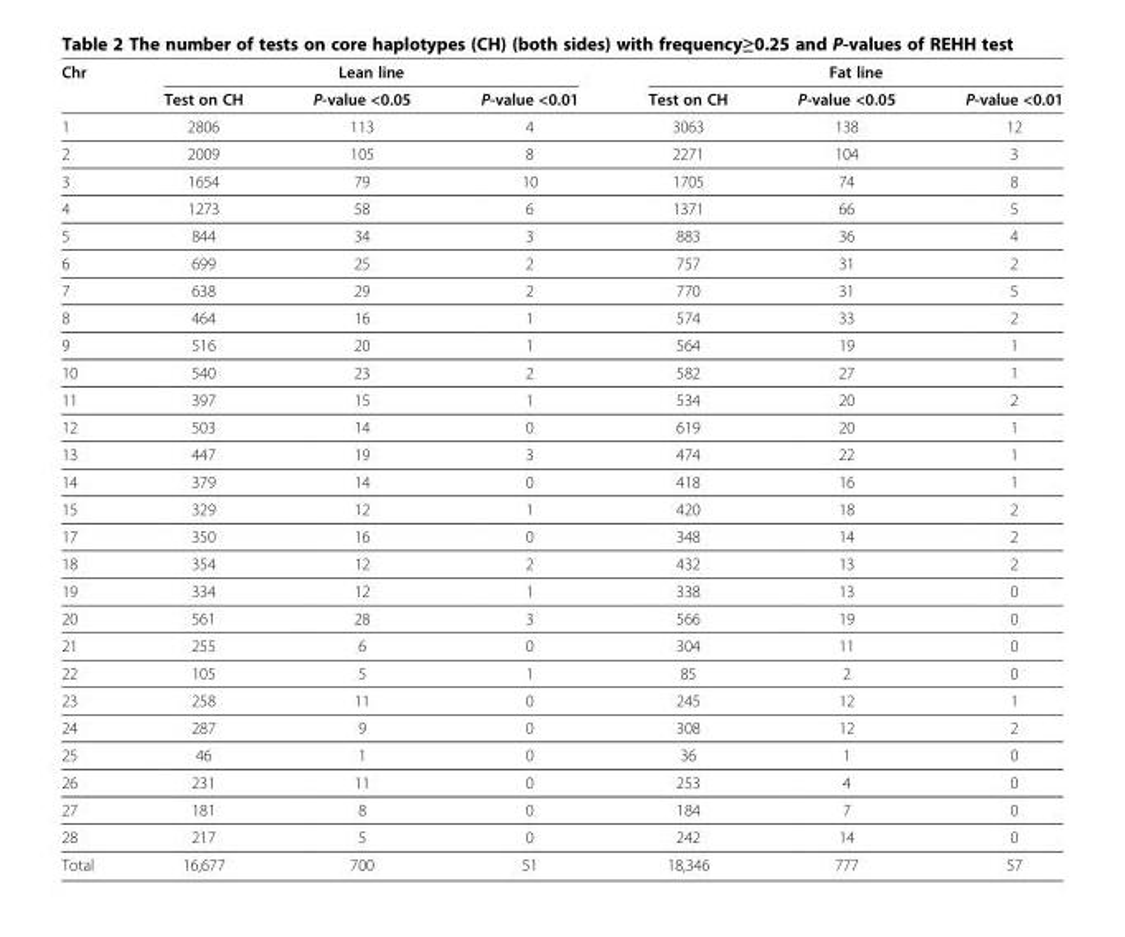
<table><thead><tr><td rowspan="2">Chr</td><td colspan="3">Lean line</td><td colspan="3">Fat line</td></tr><tr><td>Test on CH</td><td>P-value &lt;0.05</td><td>P-value &lt;0.01</td><td>Test on CH</td><td>P-value &lt;0.05</td><td>P-value &lt;0.01</td></tr></thead><tbody><tr><td>1</td><td>2806</td><td>113</td><td>4</td><td>3063</td><td>138</td><td>12</td></tr><tr><td>2</td><td>2009</td><td>105</td><td>8</td><td>2271</td><td>104</td><td>3</td></tr><tr><td>3</td><td>1654</td><td>79</td><td>10</td><td>1705</td><td>74</td><td>8</td></tr><tr><td>4</td><td>1273</td><td>58</td><td>6</td><td>1371</td><td>66</td><td>5</td></tr><tr><td>5</td><td>844</td><td>34</td><td>3</td><td>883</td><td>36</td><td>4</td></tr><tr><td>6</td><td>699</td><td>25</td><td>2</td><td>757</td><td>31</td><td>2</td></tr><tr><td>7</td><td>638</td><td>29</td><td>2</td><td>770</td><td>31</td><td>5</td></tr><tr><td>8</td><td>464</td><td>16</td><td>1</td><td>574</td><td>33</td><td>2</td></tr><tr><td>9</td><td>516</td><td>20</td><td>1</td><td>564</td><td>19</td><td>1</td></tr><tr><td>10</td><td>540</td><td>23</td><td>2</td><td>582</td><td>27</td><td>1</td></tr><tr><td>11</td><td>397</td><td>15</td><td>1</td><td>534</td><td>20</td><td>2</td></tr><tr><td>12</td><td>503</td><td>14</td><td>0</td><td>619</td><td>20</td><td>1</td></tr><tr><td>13</td><td>447</td><td>19</td><td>3</td><td>474</td><td>22</td><td>1</td></tr><tr><td>14</td><td>379</td><td>14</td><td>0</td><td>418</td><td>16</td><td>1</td></tr><tr><td>15</td><td>329</td><td>12</td><td>1</td><td>420</td><td>18</td><td>2</td></tr><tr><td>17</td><td>350</td><td>16</td><td>0</td><td>348</td><td>14</td><td>2</td></tr><tr><td>18</td><td>354</td><td>12</td><td>2</td><td>432</td><td>13</td><td>2</td></tr><tr><td>19</td><td>334</td><td>12</td><td>1</td><td>338</td><td>13</td><td>0</td></tr><tr><td>20</td><td>561</td><td>28</td><td>3</td><td>566</td><td>19</td><td>0</td></tr><tr><td>21</td><td>255</td><td>6</td><td>0</td><td>304</td><td>11</td><td>0</td></tr><tr><td>22</td><td>105</td><td>5</td><td>1</td><td>85</td><td>2</td><td>0</td></tr><tr><td>23</td><td>258</td><td>11</td><td>0</td><td>245</td><td>12</td><td>1</td></tr><tr><td>24</td><td>287</td><td>9</td><td>0</td><td>308</td><td>12</td><td>2</td></tr><tr><td>25</td><td>46</td><td>1</td><td>0</td><td>36</td><td>1</td><td>0</td></tr><tr><td>26</td><td>231</td><td>11</td><td>0</td><td>253</td><td>4</td><td>0</td></tr><tr><td>27</td><td>181</td><td>8</td><td>0</td><td>184</td><td>7</td><td>0</td></tr><tr><td>28</td><td>217</td><td>5</td><td>0</td><td>242</td><td>14</td><td>0</td></tr><tr><td>Total</td><td>16,677</td><td>700</td><td>51</td><td>18,346</td><td>777</td><td>57</td></tr></tbody></table>